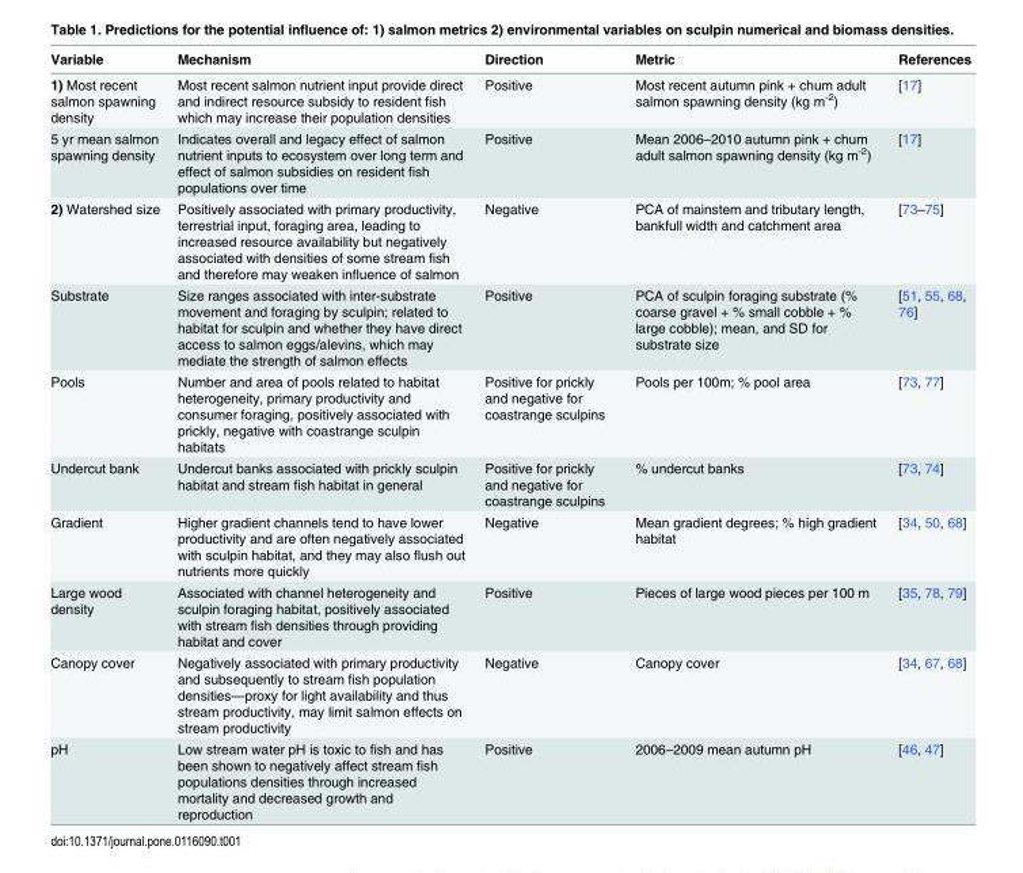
<table><thead><tr><td>Variable</td><td>Mechanism</td><td>Direction</td><td>Metric</td><td>References</td></tr></thead><tbody><tr><td>1) Most recent salmon spawning density</td><td>Most recent salmon nutrient input provide direct and indirect resource subsidy to resident fish which may increase their population densities</td><td>Positive</td><td>Most recent autumn pink + chum adult salmon spawning density (kg m<sup>-2</sup>)</td><td>[17]</td></tr><tr><td>5 yr mean salmon spawning density</td><td>Indicates overall and legacy effect of salmon nutrient inputs to ecosystem over long term and effect of salmon subsidies on resident fish populations over time</td><td>Positive</td><td>Mean 2006–2010 autumn pink + chum adult salmon spawning density (kg m<sup>-2</sup>)</td><td>[17]</td></tr><tr><td>2) Watershed size</td><td>Positively associated with primary productivity, terrestrial input, foraging area, leading to increased resource availability but negatively associated with densities of some stream fish and therefore may weaken influence of salmon</td><td>Negative</td><td>PCA of mainstem and tributary length, bankfull width and catchment area</td><td>[73–75]</td></tr><tr><td>Substrate</td><td>Size ranges associated with inter-substrate movement and foraging by sculpin; related to habitat for sculpin and whether they have direct access to salmon eggs/alevins, which may mediate the strength of salmon effects</td><td>Positive</td><td>PCA of sculpin foraging substrate (% coarse gravel + % small cobble + % large cobble); mean, and SD for substrate size</td><td>[51, 55, 68, 76]</td></tr><tr><td>Pools</td><td>Number and area of pools related to habitat heterogeneity, primary productivity and consumer foraging, positively associated with prickly, negative with coastrange sculpin habitats</td><td>Positive for prickly and negative for coastrange sculpins</td><td>Pools per 100m; % pool area</td><td>[73, 77]</td></tr><tr><td>Undercut bank</td><td>Undercut banks associated with prickly sculpin habitat and stream fish habitat in general</td><td>Positive for prickly and negative for coastrange sculpins</td><td>% undercut banks</td><td>[73, 74]</td></tr><tr><td>Gradient</td><td>Higher gradient channels tend to have lower productivity and are often negatively associated with sculpin habitat, and they may also flush out nutrients more quickly</td><td>Negative</td><td>Mean gradient degrees; % high gradient habitat</td><td>[34, 50, 68]</td></tr><tr><td>Large wood density</td><td>Associated with channel heterogeneity and sculpin foraging habitat, positively associated with stream fish densities through providing habitat and cover</td><td>Positive</td><td>Pieces of large wood pieces per 100 m</td><td>[35, 78, 79]</td></tr><tr><td>Canopy cover</td><td>Negatively associated with primary productivity and subsequently to stream fish population densities—proxy for light availability and thus stream productivity, may limit salmon effects on stream productivity</td><td>Negative</td><td>Canopy cover</td><td>[34, 67, 68]</td></tr><tr><td>pH</td><td>Low stream water pH is toxic to fish and has been shown to negatively affect stream fish populations densities through increased mortality and decreased growth and reproduction</td><td>Positive</td><td>2006–2009 mean autumn pH</td><td>[46, 47]</td></tr></tbody></table>